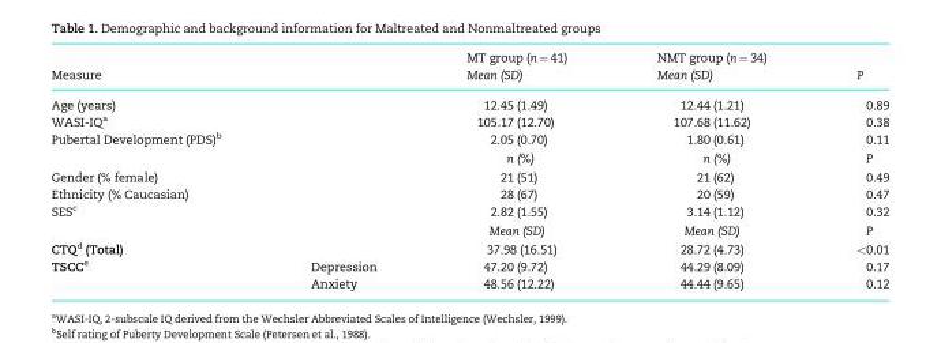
<table><thead><tr><td rowspan="2">Measure</td><td rowspan="2"></td><td rowspan="2">MT group (n = 41) Mean (SD)</td><td rowspan="2">NMT group (n = 34) Mean (SD)</td><td rowspan="2">P</td></tr><tr></tr></thead><tbody><tr><td>Age (years)</td><td></td><td>12.45 (1.49)</td><td>12.44 (1.21)</td><td>0.89</td></tr><tr><td>WASI-IQ<sup>a</sup></td><td></td><td>105.17 (12.70)</td><td>107.68 (11.62)</td><td>0.38</td></tr><tr><td rowspan="2">Pubertal Development (PDS)<sup>b</sup></td><td></td><td>2.05 (0.70)</td><td>1.80 (0.61)</td><td>0.11</td></tr><tr><td></td><td>n (%)</td><td>n (%)</td><td>P</td></tr><tr><td>Gender (% female)</td><td></td><td>21 (51)</td><td>21 (62)</td><td>0.49</td></tr><tr><td>Ethnicity (% Caucasian)</td><td></td><td>28 (67)</td><td>20 (59)</td><td>0.47</td></tr><tr><td rowspan="2">SES<sup>c</sup></td><td></td><td>2.82 (1.55)</td><td>3.14 (1.12)</td><td>0.32</td></tr><tr><td></td><td>Mean (SD)</td><td>Mean (SD)</td><td>P</td></tr><tr><td>CTQ<sup>d</sup> (Total)</td><td></td><td>37.98 (16.51)</td><td>28.72 (4.73)</td><td>&lt;0.01</td></tr><tr><td rowspan="2">TSCC<sup>e</sup></td><td>Depression</td><td>47.20 (9.72)</td><td>44.29 (8.09)</td><td>0.17</td></tr><tr><td>Anxiety</td><td>48.56 (12.22)</td><td>44.44 (9.65)</td><td>0.12</td></tr></tbody></table>